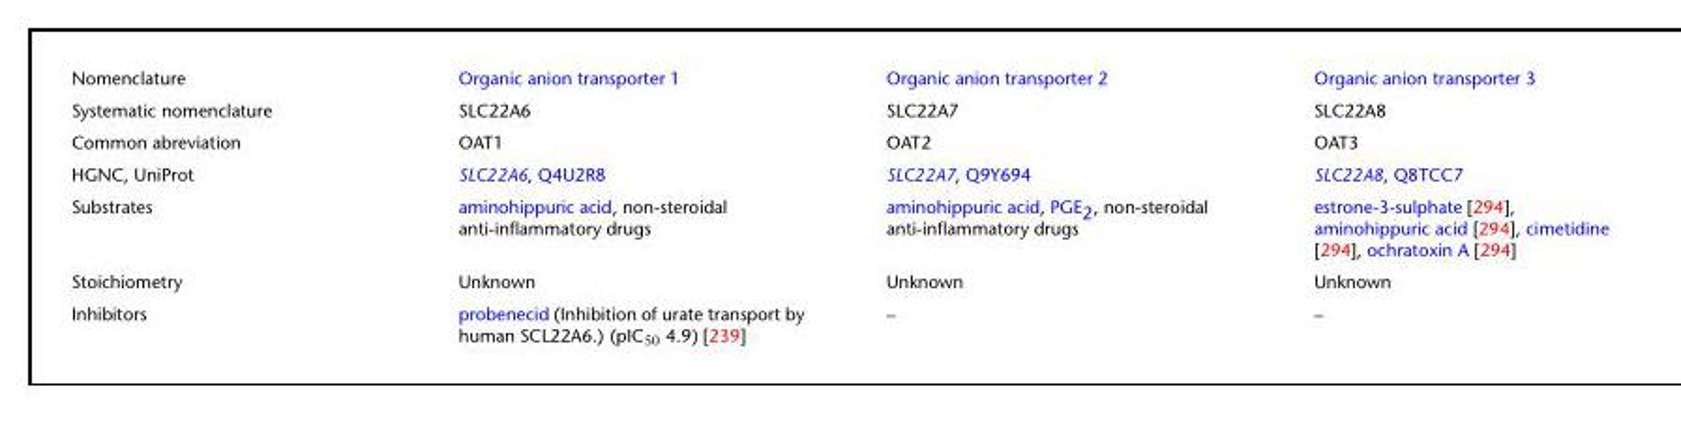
<table><tbody><tr><td>Nomenclature</td><td>Organic anion transporter 1</td><td>Organic anion transporter 2</td><td>Organic anion transporter 3</td></tr><tr><td>Systematic nomenclature</td><td>SLC22A6</td><td>SLC22A7</td><td>SLC22A8</td></tr><tr><td>Common abreviation</td><td>OAT1</td><td>OAT2</td><td>OAT3</td></tr><tr><td>HGNC, UniProt</td><td>SLC22A6, Q4U2R8</td><td>SLC22A7, Q9Y694</td><td>SLC22A8, Q8TCC7</td></tr><tr><td>Substrates</td><td>aminohippuric acid, non-steroidal anti-inflammatory drugs</td><td>aminohippuric acid, PGE<sub>2</sub>, non-steroidal anti-inflammatory drugs</td><td>estrone-3-sulphate [294], aminohippuric acid [294], cimetidine [294], ochratoxin A [294]</td></tr><tr><td>Stoichiometry</td><td>Unknown</td><td>Unknown</td><td>Unknown</td></tr><tr><td>Inhibitors</td><td>probenecid (Inhibition of urate transport by human SCL22A6.) (pIC<sub>50</sub> 4.9) [239]</td><td>–</td><td>–</td></tr></tbody></table>